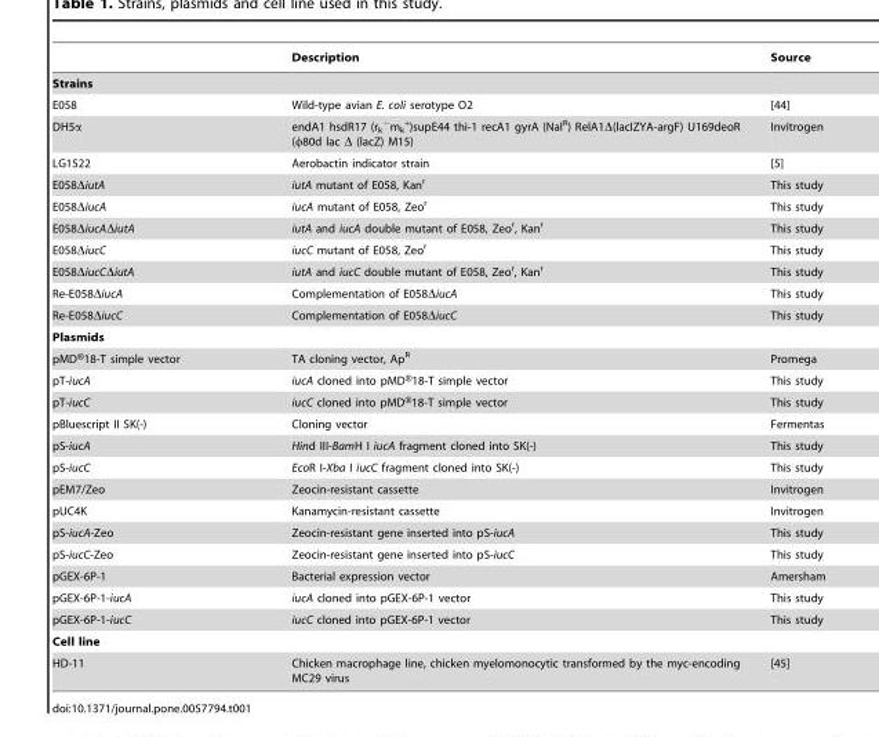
<table><thead><tr><td></td><td>Description</td><td>Source</td></tr></thead><tbody><tr><td colspan="3">Strains</td></tr><tr><td>E058</td><td>Wild-type avian E. coli serotype O2</td><td>[44]</td></tr><tr><td>DH5α</td><td>endA1 hsdR17 (r<sub>k</sub> <sup>−</sup>m<sub>k</sub> <sup>+</sup>)supE44 thi-1 recA1 gyrA (Nal<sup>R</sup>) RelA1Δ(lacIZYA-argF) U169deoR (φ80d lac Δ (lacZ) M15)</td><td>Invitrogen</td></tr><tr><td>LG1522</td><td>Aerobactin indicator strain</td><td>[5]</td></tr><tr><td>E058ΔiutA</td><td>iutA mutant of E058, Kan<sup>r</sup></td><td>This study</td></tr><tr><td>E058ΔiucA</td><td>iucA mutant of E058, Zeo<sup>r</sup></td><td>This study</td></tr><tr><td>E058ΔiucAΔiutA</td><td>iutA and iucA double mutant of E058, Zeo<sup>r</sup>, Kan<sup>r</sup></td><td>This study</td></tr><tr><td>E058ΔiucC</td><td>iucC mutant of E058, Zeo<sup>r</sup></td><td>This study</td></tr><tr><td>E058ΔiucCΔiutA</td><td>iutA and iucC double mutant of E058, Zeo<sup>r</sup>, Kan<sup>r</sup></td><td>This study</td></tr><tr><td>Re-E058ΔiucA</td><td>Complementation of E058ΔiucA</td><td>This study</td></tr><tr><td>Re-E058ΔiucC</td><td>Complementation of E058ΔiucC</td><td>This study</td></tr><tr><td colspan="3">Plasmids</td></tr><tr><td>pMD®18-T simple vector</td><td>TA cloning vector, Ap<sup>R</sup></td><td>Promega</td></tr><tr><td>pT-iucA</td><td>iucA cloned into pMD®18-T simple vector</td><td>This study</td></tr><tr><td>pT-iucC</td><td>iucC cloned into pMD®18-T simple vector</td><td>This study</td></tr><tr><td>pBluescript II SK(-)</td><td>Cloning vector</td><td>Fermentas</td></tr><tr><td>pS-iucA</td><td>Hind III-BamH I iucA fragment cloned into SK(-)</td><td>This study</td></tr><tr><td>pS-iucC</td><td>EcoR I-Xba I iucC fragment cloned into SK(-)</td><td>This study</td></tr><tr><td>pEM7/Zeo</td><td>Zeocin-resistant cassette</td><td>Invitrogen</td></tr><tr><td>pUC4K</td><td>Kanamycin-resistant cassette</td><td>Invitrogen</td></tr><tr><td>pS-iucA-Zeo</td><td>Zeocin-resistant gene inserted into pS-iucA</td><td>This study</td></tr><tr><td>pS-iucC-Zeo</td><td>Zeocin-resistant gene inserted into pS-iucC</td><td>This study</td></tr><tr><td>pGEX-6P-1</td><td>Bacterial expression vector</td><td>Amersham</td></tr><tr><td>pGEX-6P-1-iucA</td><td>iucA cloned into pGEX-6P-1 vector</td><td>This study</td></tr><tr><td>pGEX-6P-1-iucC</td><td>iucC cloned into pGEX-6P-1 vector</td><td>This study</td></tr><tr><td colspan="3">Cell line</td></tr><tr><td>HD-11</td><td>Chicken macrophage line, chicken myelomonocytic transformed by the myc-encoding MC29 virus</td><td>[45]</td></tr></tbody></table>